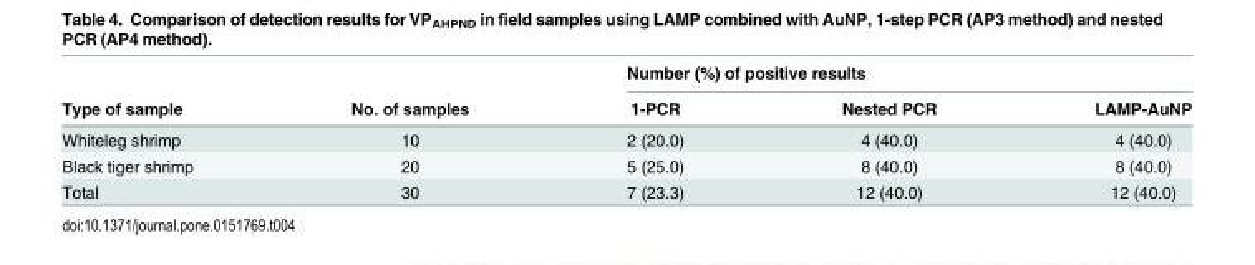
<table><thead><tr><td rowspan="2">Type of sample</td><td rowspan="2">No. of samples</td><td colspan="3">Number (%) of positive results</td></tr><tr><td>1-PCR</td><td>Nested PCR</td><td>LAMP-AuNP</td></tr></thead><tbody><tr><td>Whiteleg shrimp</td><td>10</td><td>2 (20.0)</td><td>4 (40.0)</td><td>4 (40.0)</td></tr><tr><td>Black tiger shrimp</td><td>20</td><td>5 (25.0)</td><td>8 (40.0)</td><td>8 (40.0)</td></tr><tr><td>Total</td><td>30</td><td>7 (23.3)</td><td>12 (40.0)</td><td>12 (40.0)</td></tr></tbody></table>